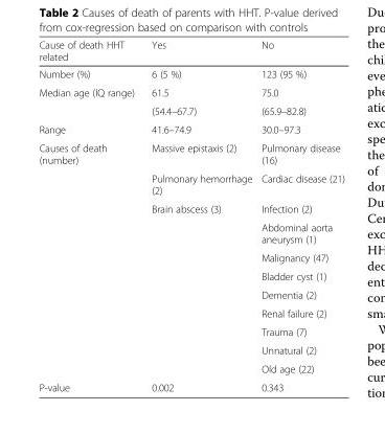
<table><thead><tr><td>Cause of death HHT related</td><td>Yes</td><td>No</td></tr></thead><tbody><tr><td>Number (%)</td><td>6 (5 %)</td><td>123 (95 %)</td></tr><tr><td rowspan="2">Median age (IQ range)</td><td>61.5</td><td>75.0</td></tr><tr><td>(54.4–67.7)</td><td>(65.9–82.8)</td></tr><tr><td>Range</td><td>41.6–74.9</td><td>30.0–97.3</td></tr><tr><td rowspan="11">Causes of death (number)</td><td>Massive epistaxis (2)</td><td>Pulmonary disease (16)</td></tr><tr><td>Pulmonary hemorrhage (2)</td><td>Cardiac disease (21)</td></tr><tr><td rowspan="9">Brain abscess (3)</td><td>Infection (2)</td></tr><tr><td>Abdominal aorta aneurysm (1)</td></tr><tr><td>Malignancy (47)</td></tr><tr><td>Bladder cyst (1)</td></tr><tr><td>Dementia (2)</td></tr><tr><td>Renal failure (2)</td></tr><tr><td>Trauma (7)</td></tr><tr><td>Unnatural (2)</td></tr><tr><td>Old age (22)</td></tr><tr><td>P-value</td><td>0.002</td><td>0.343</td></tr></tbody></table>